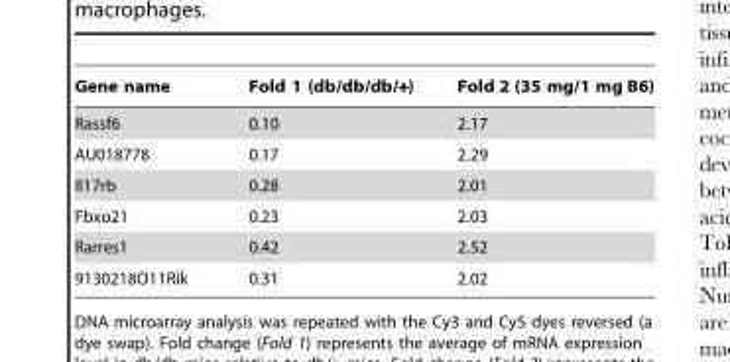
<table><thead><tr><td>Gene name</td><td>Fold 1 (db/db/db/+)</td><td>Fold 2 (35 mg/1 mg B6)</td></tr></thead><tbody><tr><td>Rassf6</td><td>0.10</td><td>2.17</td></tr><tr><td>AU018778</td><td>0.17</td><td>2.29</td></tr><tr><td>Il17rb</td><td>0.28</td><td>2.01</td></tr><tr><td>Fbxo21</td><td>0.23</td><td>2.03</td></tr><tr><td>Rarres1</td><td>0.42</td><td>2.52</td></tr><tr><td>9130218O11Rik</td><td>0.31</td><td>2.02</td></tr></tbody></table>